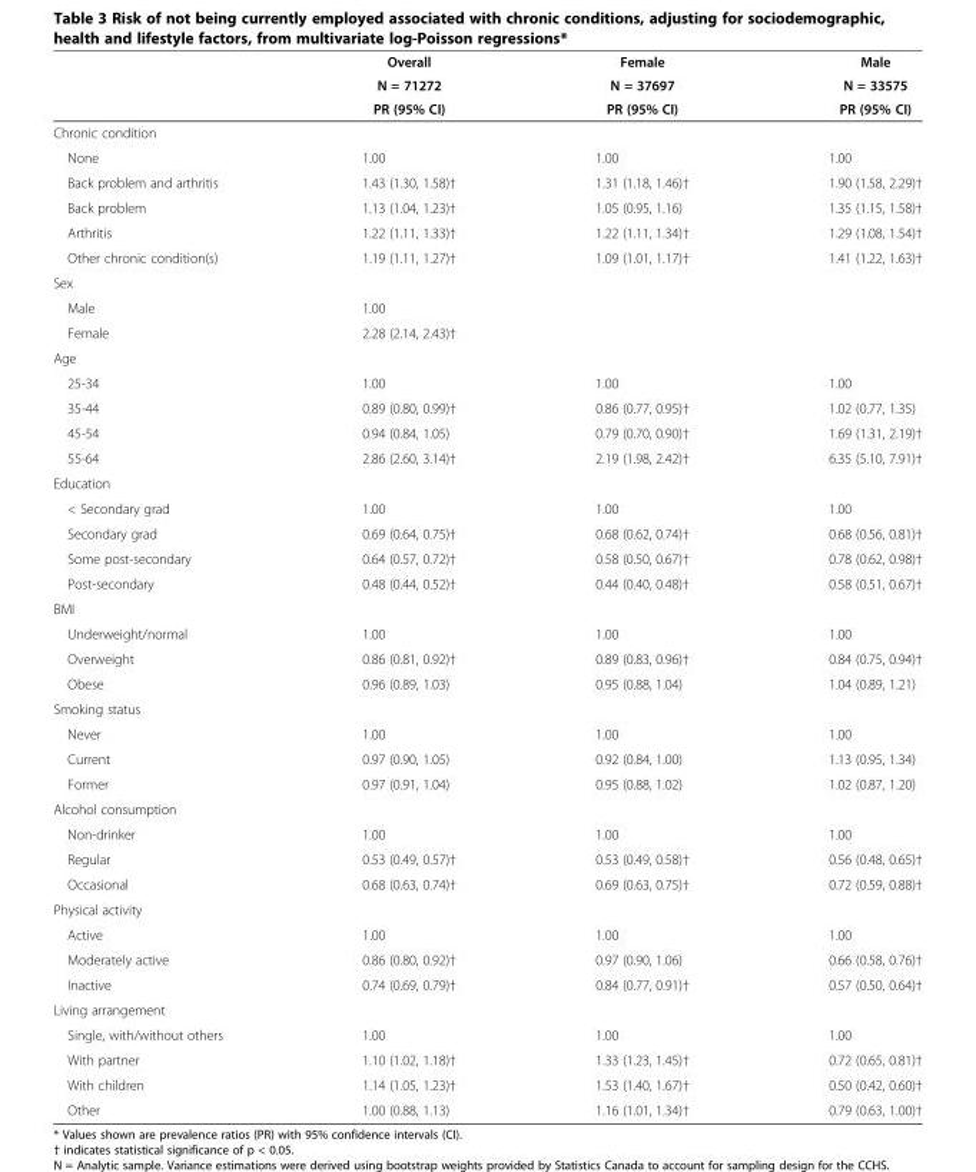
<table><thead><tr><td rowspan="3"></td><td rowspan="3">Overall N = 71272 PR (95% CI)</td><td rowspan="3">Female N = 37697 PR (95% CI)</td><td rowspan="3">Male N = 33575 PR (95% CI)</td></tr><tr></tr><tr></tr></thead><tbody><tr><td colspan="4">Chronic condition</td></tr><tr><td>None</td><td>1.00</td><td>1.00</td><td>1.00</td></tr><tr><td>Back problem and arthritis</td><td>1.43 (1.30, 1.58)†</td><td>1.31 (1.18, 1.46)†</td><td>1.90 (1.58, 2.29)†</td></tr><tr><td>Back problem</td><td>1.13 (1.04, 1.23)†</td><td>1.05 (0.95, 1.16)</td><td>1.35 (1.15, 1.58)†</td></tr><tr><td>Arthritis</td><td>1.22 (1.11, 1.33)†</td><td>1.22 (1.11, 1.34)†</td><td>1.29 (1.08, 1.54)†</td></tr><tr><td>Other chronic condition(s)</td><td>1.19 (1.11, 1.27)†</td><td>1.09 (1.01, 1.17)†</td><td>1.41 (1.22, 1.63)†</td></tr><tr><td colspan="4">Sex</td></tr><tr><td>Male</td><td>1.00</td><td></td><td></td></tr><tr><td>Female</td><td>2.28 (2.14, 2.43)†</td><td></td><td></td></tr><tr><td colspan="4">Age</td></tr><tr><td>25-34</td><td>1.00</td><td>1.00</td><td>1.00</td></tr><tr><td>35-44</td><td>0.89 (0.80, 0.99)†</td><td>0.86 (0.77, 0.95)†</td><td>1.02 (0.77, 1.35)</td></tr><tr><td>45-54</td><td>0.94 (0.84, 1.05)</td><td>0.79 (0.70, 0.90)†</td><td>1.69 (1.31, 2.19)†</td></tr><tr><td>55-64</td><td>2.86 (2.60, 3.14)†</td><td>2.19 (1.98, 2.42)†</td><td>6.35 (5.10, 7.91)†</td></tr><tr><td colspan="4">Education</td></tr><tr><td>&lt; Secondary grad</td><td>1.00</td><td>1.00</td><td>1.00</td></tr><tr><td>Secondary grad</td><td>0.69 (0.64, 0.75)†</td><td>0.68 (0.62, 0.74)†</td><td>0.68 (0.56, 0.81)†</td></tr><tr><td>Some post-secondary</td><td>0.64 (0.57, 0.72)†</td><td>0.58 (0.50, 0.67)†</td><td>0.78 (0.62, 0.98)†</td></tr><tr><td>Post-secondary</td><td>0.48 (0.44, 0.52)†</td><td>0.44 (0.40, 0.48)†</td><td>0.58 (0.51, 0.67)†</td></tr><tr><td colspan="4">BMI</td></tr><tr><td>Underweight/normal</td><td>1.00</td><td>1.00</td><td>1.00</td></tr><tr><td>Overweight</td><td>0.86 (0.81, 0.92)†</td><td>0.89 (0.83, 0.96)†</td><td>0.84 (0.75, 0.94)†</td></tr><tr><td>Obese</td><td>0.96 (0.89, 1.03)</td><td>0.95 (0.88, 1.04)</td><td>1.04 (0.89, 1.21)</td></tr><tr><td colspan="4">Smoking status</td></tr><tr><td>Never</td><td>1.00</td><td>1.00</td><td>1.00</td></tr><tr><td>Current</td><td>0.97 (0.90, 1.05)</td><td>0.92 (0.84, 1.00)</td><td>1.13 (0.95, 1.34)</td></tr><tr><td>Former</td><td>0.97 (0.91, 1.04)</td><td>0.95 (0.88, 1.02)</td><td>1.02 (0.87, 1.20)</td></tr><tr><td colspan="4">Alcohol consumption</td></tr><tr><td>Non-drinker</td><td>1.00</td><td>1.00</td><td>1.00</td></tr><tr><td>Regular</td><td>0.53 (0.49, 0.57)†</td><td>0.53 (0.49, 0.58)†</td><td>0.56 (0.48, 0.65)†</td></tr><tr><td>Occasional</td><td>0.68 (0.63, 0.74)†</td><td>0.69 (0.63, 0.75)†</td><td>0.72 (0.59, 0.88)†</td></tr><tr><td colspan="4">Physical activity</td></tr><tr><td>Active</td><td>1.00</td><td>1.00</td><td>1.00</td></tr><tr><td>Moderately active</td><td>0.86 (0.80, 0.92)†</td><td>0.97 (0.90, 1.06)</td><td>0.66 (0.58, 0.76)†</td></tr><tr><td>Inactive</td><td>0.74 (0.69, 0.79)†</td><td>0.84 (0.77, 0.91)†</td><td>0.57 (0.50, 0.64)†</td></tr><tr><td colspan="4">Living arrangement</td></tr><tr><td>Single, with/without others</td><td>1.00</td><td>1.00</td><td>1.00</td></tr><tr><td>With partner</td><td>1.10 (1.02, 1.18)†</td><td>1.33 (1.23, 1.45)†</td><td>0.72 (0.65, 0.81)†</td></tr><tr><td>With children</td><td>1.14 (1.05, 1.23)†</td><td>1.53 (1.40, 1.67)†</td><td>0.50 (0.42, 0.60)†</td></tr><tr><td>Other</td><td>1.00 (0.88, 1.13)</td><td>1.16 (1.01, 1.34)†</td><td>0.79 (0.63, 1.00)†</td></tr></tbody></table>